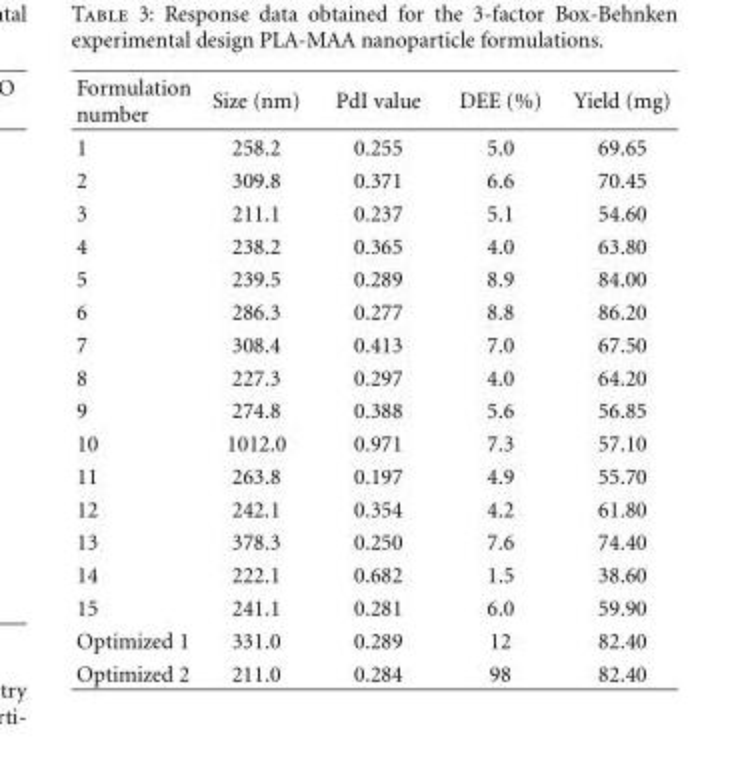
<table><thead><tr><td>Formulation number</td><td>Size (nm)</td><td>PdI value</td><td>DEE (%)</td><td>Yield (mg)</td></tr></thead><tbody><tr><td>1</td><td>258.2</td><td>0.255</td><td>5.0</td><td>69.65</td></tr><tr><td>2</td><td>309.8</td><td>0.371</td><td>6.6</td><td>70.45</td></tr><tr><td>3</td><td>211.1</td><td>0.237</td><td>5.1</td><td>54.60</td></tr><tr><td>4</td><td>238.2</td><td>0.365</td><td>4.0</td><td>63.80</td></tr><tr><td>5</td><td>239.5</td><td>0.289</td><td>8.9</td><td>84.00</td></tr><tr><td>6</td><td>286.3</td><td>0.277</td><td>8.8</td><td>86.20</td></tr><tr><td>7</td><td>308.4</td><td>0.413</td><td>7.0</td><td>67.50</td></tr><tr><td>8</td><td>227.3</td><td>0.297</td><td>4.0</td><td>64.20</td></tr><tr><td>9</td><td>274.8</td><td>0.388</td><td>5.6</td><td>56.85</td></tr><tr><td>10</td><td>1012.0</td><td>0.971</td><td>7.3</td><td>57.10</td></tr><tr><td>11</td><td>263.8</td><td>0.197</td><td>4.9</td><td>55.70</td></tr><tr><td>12</td><td>242.1</td><td>0.354</td><td>4.2</td><td>61.80</td></tr><tr><td>13</td><td>378.3</td><td>0.250</td><td>7.6</td><td>74.40</td></tr><tr><td>14</td><td>222.1</td><td>0.682</td><td>1.5</td><td>38.60</td></tr><tr><td>15</td><td>241.1</td><td>0.281</td><td>6.0</td><td>59.90</td></tr><tr><td>Optimized 1</td><td>331.0</td><td>0.289</td><td>12</td><td>82.40</td></tr><tr><td>Optimized 2</td><td>211.0</td><td>0.284</td><td>98</td><td>82.40</td></tr></tbody></table>